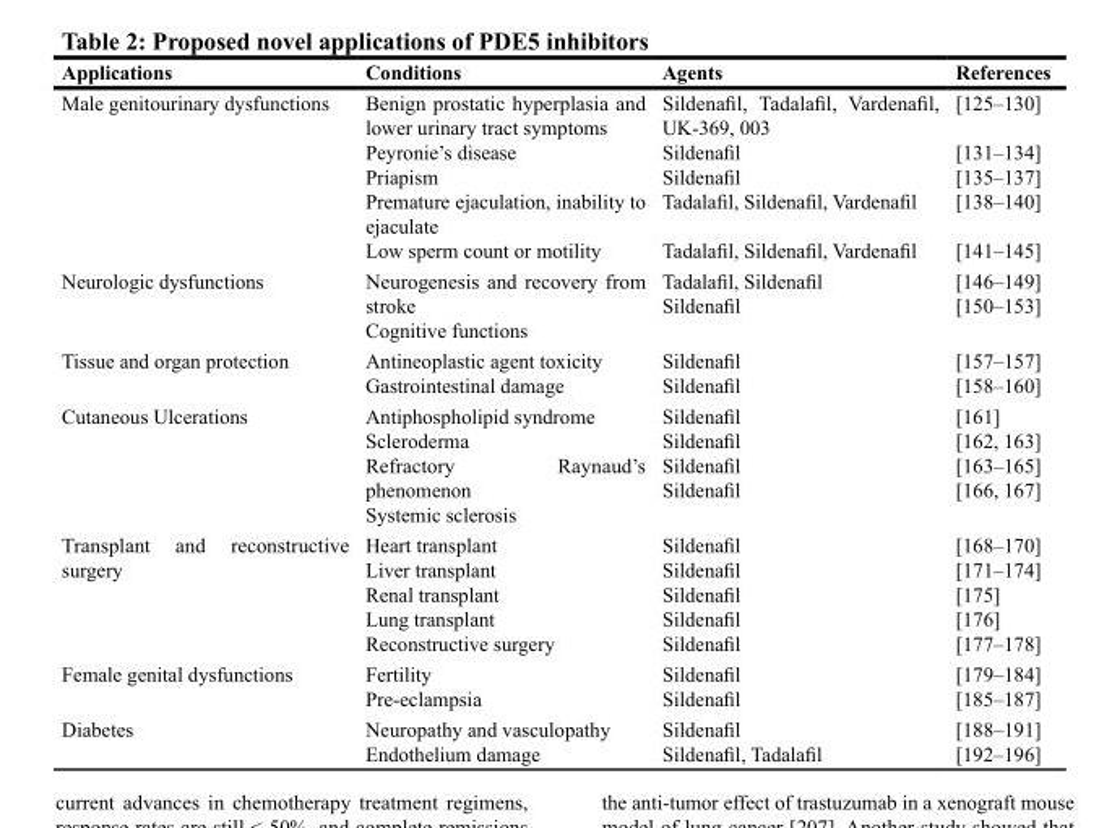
<table><thead><tr><td>Applications</td><td>Conditions</td><td>Agents</td><td>References</td></tr></thead><tbody><tr><td>Male genitourinary dysfunctions</td><td>Benign prostatic hyperplasia and lower urinary tract symptoms Peyronie’s disease Priapism Premature ejaculation, inability to ejaculate Low sperm count or motility</td><td>Sildenafil, Tadalafil, Vardenafil, UK-369, 003 Sildenafil Sildenafil Tadalafil, Sildenafil, Vardenafil Tadalafil, Sildenafil, Vardenafil</td><td>[125–130] [131–134] [135–137] [138–140] [141–145]</td></tr><tr><td>Neurologic dysfunctions</td><td>Neurogenesis and recovery from stroke Cognitive functions</td><td>Tadalafil, Sildenafil Sildenafil</td><td>[146–149] [150–153]</td></tr><tr><td>Tissue and organ protection</td><td>Antineoplastic agent toxicity Gastrointestinal damage</td><td>Sildenafil Sildenafil</td><td>[157–157] [158–160]</td></tr><tr><td>Cutaneous Ulcerations</td><td>Antiphospholipid syndrome Scleroderma Refractory Raynaud’s phenomenon Systemic sclerosis</td><td>Sildenafil Sildenafil Sildenafil Sildenafil</td><td>[161] [162, 163] [163–165] [166, 167]</td></tr><tr><td>Transplant and reconstructive surgery</td><td>Heart transplant Liver transplant Renal transplant Lung transplant Reconstructive surgery</td><td>Sildenafil Sildenafil Sildenafil Sildenafil Sildenafil</td><td>[168–170] [171–174] [175] [176] [177–178]</td></tr><tr><td>Female genital dysfunctions</td><td>Fertility Pre-eclampsia</td><td>Sildenafil Sildenafil</td><td>[179–184] [185–187]</td></tr><tr><td>Diabetes</td><td>Neuropathy and vasculopathy Endothelium damage</td><td>Sildenafil Sildenafil, Tadalafil</td><td>[188–191] [192–196]</td></tr></tbody></table>